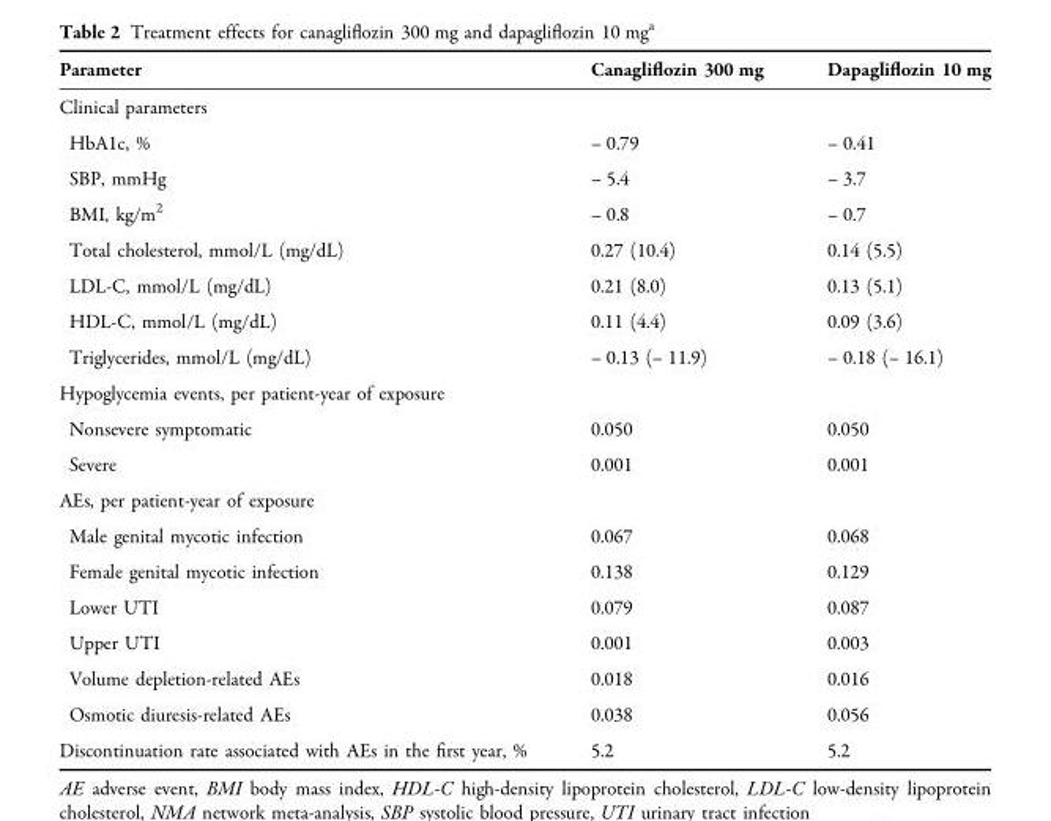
<table><thead><tr><td>Parameter</td><td>Canagliflozin 300 mg</td><td>Dapagliflozin 10 mg</td></tr></thead><tbody><tr><td colspan="3">Clinical parameters</td></tr><tr><td>HbA1c, %</td><td>– 0.79</td><td>– 0.41</td></tr><tr><td>SBP, mmHg</td><td>– 5.4</td><td>– 3.7</td></tr><tr><td>BMI, kg/m<sup>2</sup></td><td>– 0.8</td><td>– 0.7</td></tr><tr><td>Total cholesterol, mmol/L (mg/dL)</td><td>0.27 (10.4)</td><td>0.14 (5.5)</td></tr><tr><td>LDL-C, mmol/L (mg/dL)</td><td>0.21 (8.0)</td><td>0.13 (5.1)</td></tr><tr><td>HDL-C, mmol/L (mg/dL)</td><td>0.11 (4.4)</td><td>0.09 (3.6)</td></tr><tr><td>Triglycerides, mmol/L (mg/dL)</td><td>– 0.13 (– 11.9)</td><td>– 0.18 (– 16.1)</td></tr><tr><td colspan="3">Hypoglycemia events, per patient-year of exposure</td></tr><tr><td>Nonsevere symptomatic</td><td>0.050</td><td>0.050</td></tr><tr><td>Severe</td><td>0.001</td><td>0.001</td></tr><tr><td colspan="3">AEs, per patient-year of exposure</td></tr><tr><td>Male genital mycotic infection</td><td>0.067</td><td>0.068</td></tr><tr><td>Female genital mycotic infection</td><td>0.138</td><td>0.129</td></tr><tr><td>Lower UTI</td><td>0.079</td><td>0.087</td></tr><tr><td>Upper UTI</td><td>0.001</td><td>0.003</td></tr><tr><td>Volume depletion-related AEs</td><td>0.018</td><td>0.016</td></tr><tr><td>Osmotic diuresis-related AEs</td><td>0.038</td><td>0.056</td></tr><tr><td>Discontinuation rate associated with AEs in the first year, %</td><td>5.2</td><td>5.2</td></tr></tbody></table>